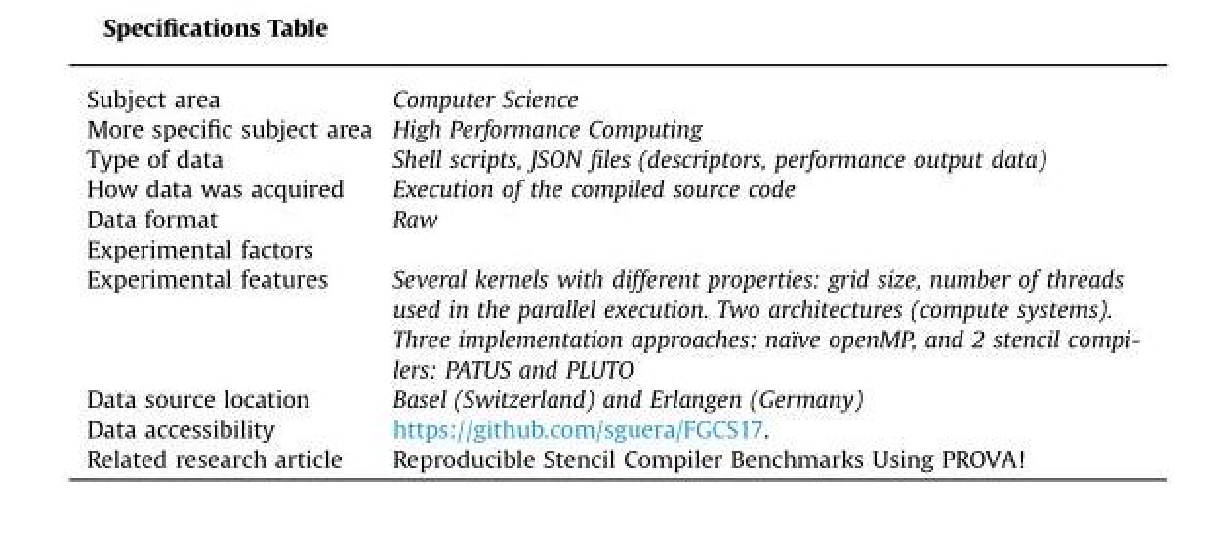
<table><tbody><tr><td>Subject area</td><td>Computer Science</td></tr><tr><td>More specific subject area</td><td>High Performance Computing</td></tr><tr><td>Type of data</td><td>Shell scripts, JSON files (descriptors, performance output data)</td></tr><tr><td>How data was acquired</td><td>Execution of the compiled source code</td></tr><tr><td>Data format</td><td>Raw</td></tr><tr><td colspan="2">Experimental factors</td></tr><tr><td>Experimental features</td><td>Several kernels with different properties: grid size, number of threads used in the parallel execution. Two architectures (compute systems). Three implementation approaches: naïve openMP, and 2 stencil compi- lers: PATUS and PLUTO</td></tr><tr><td>Data source location</td><td>Basel (Switzerland) and Erlangen (Germany)</td></tr><tr><td>Data accessibility</td><td>https://github.com/sguera/FGCS17.</td></tr><tr><td>Related research article</td><td>Reproducible Stencil Compiler Benchmarks Using PROVA!</td></tr></tbody></table>